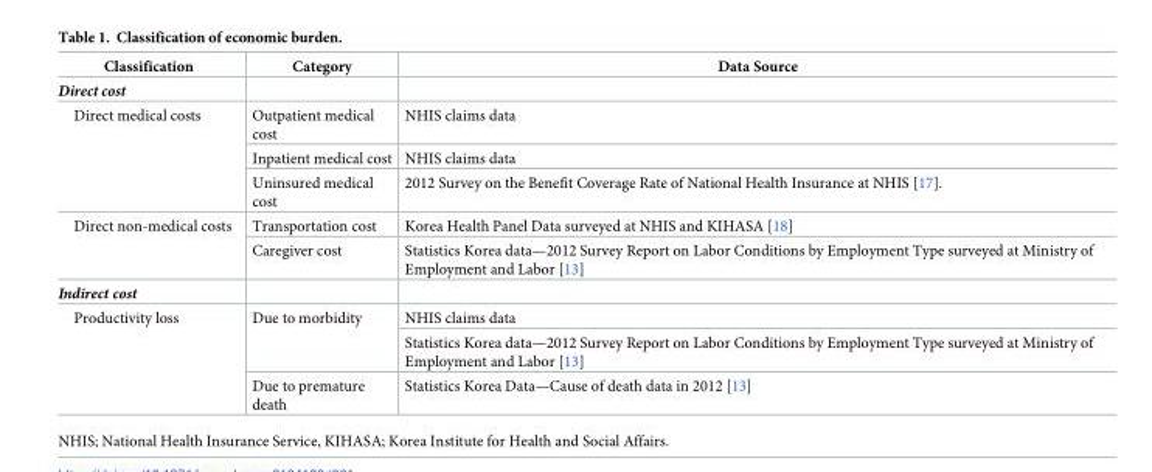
<table><thead><tr><td>Classification</td><td>Category</td><td>Data Source</td></tr></thead><tbody><tr><td colspan="3">Direct cost</td></tr><tr><td rowspan="3">Direct medical costs</td><td>Outpatient medical cost</td><td>NHIS claims data</td></tr><tr><td>Inpatient medical cost</td><td>NHIS claims data</td></tr><tr><td>Uninsured medical cost</td><td>2012 Survey on the Benefit Coverage Rate of National Health Insurance at NHIS [17].</td></tr><tr><td rowspan="2">Direct non-medical costs</td><td>Transportation cost</td><td>Korea Health Panel Data surveyed at NHIS and KIHASA [18]</td></tr><tr><td>Caregiver cost</td><td>Statistics Korea data—2012 Survey Report on Labor Conditions by Employment Type surveyed at Ministry of Employment and Labor [13]</td></tr><tr><td colspan="3">Indirect cost</td></tr><tr><td rowspan="3">Productivity loss</td><td rowspan="2">Due to morbidity</td><td>NHIS claims data</td></tr><tr><td>Statistics Korea data—2012 Survey Report on Labor Conditions by Employment Type surveyed at Ministry of Employment and Labor [13]</td></tr><tr><td>Due to premature death</td><td>Statistics Korea Data—Cause of death data in 2012 [13]</td></tr></tbody></table>